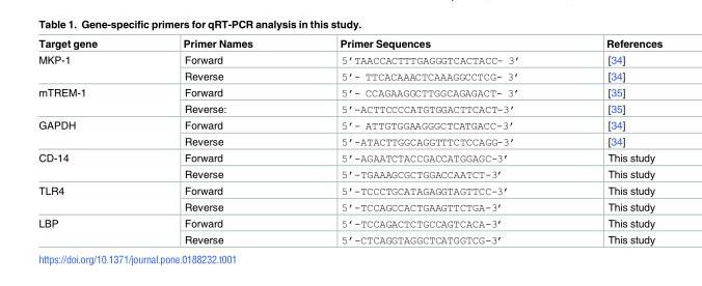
<table><thead><tr><td>Target gene</td><td>Primer Names</td><td>Primer Sequences</td><td>References</td></tr></thead><tbody><tr><td rowspan="2">MKP-1</td><td>Forward</td><td>5’TAACCACTTTGAGGGTCACTACC- 3’</td><td>[34]</td></tr><tr><td>Reverse</td><td>5’- TTCACAAACTCAAAGGCCTCG- 3’</td><td>[34]</td></tr><tr><td rowspan="2">mTREM-1</td><td>Forward</td><td>5’- CCAGAAGGCTTGGCAGAGACT- 3’</td><td>[35]</td></tr><tr><td>Reverse:</td><td>5’-ACTTCCCCATGTGGACTTCACT-3’</td><td>[35]</td></tr><tr><td rowspan="2">GAPDH</td><td>Forward</td><td>5’- ATTGTGGAAGGGCTCATGACC-3’</td><td>[34]</td></tr><tr><td>Reverse</td><td>5’-ATACTTGGCAGGTTTCTCCAGG-3’</td><td>[34]</td></tr><tr><td rowspan="2">CD-14</td><td>Forward</td><td>5’-AGAATCTACCGACCATGGAGC-3’</td><td>This study</td></tr><tr><td>Reverse</td><td>5’-TGAAAGCGCTGGACCAATCT-3’</td><td>This study</td></tr><tr><td rowspan="2">TLR4</td><td>Forward</td><td>5’-TCCCTGCATAGAGGTAGTTCC-3’</td><td>This study</td></tr><tr><td>Reverse</td><td>5’-TCCAGCCACTGAAGTTCTGA-3’</td><td>This study</td></tr><tr><td rowspan="2">LBP</td><td>Forward</td><td>5’-TCCAGACTCTGCCAGTCACA-3’</td><td>This study</td></tr><tr><td>Reverse</td><td>5’-CTCAGGTAGGCTCATGGTCG-3’</td><td>This study</td></tr></tbody></table>